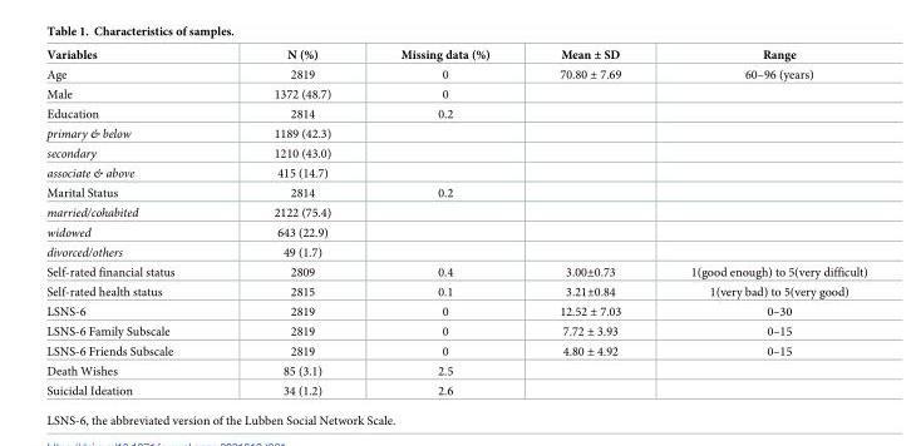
<table><thead><tr><td>Variables</td><td>N (%)</td><td>Missing data (%)</td><td>Mean ± SD</td><td>Range</td></tr></thead><tbody><tr><td>Age</td><td>2819</td><td>0</td><td>70.80 ± 7.69</td><td>60–96 (years)</td></tr><tr><td>Male</td><td>1372 (48.7)</td><td>0</td><td></td><td></td></tr><tr><td>Education</td><td>2814</td><td>0.2</td><td></td><td></td></tr><tr><td>primary &amp; below</td><td>1189 (42.3)</td><td></td><td></td><td></td></tr><tr><td>secondary</td><td>1210 (43.0)</td><td></td><td></td><td></td></tr><tr><td>associate &amp; above</td><td>415 (14.7)</td><td></td><td></td><td></td></tr><tr><td>Marital Status</td><td>2814</td><td>0.2</td><td></td><td></td></tr><tr><td>married/cohabited</td><td>2122 (75.4)</td><td></td><td></td><td></td></tr><tr><td>widowed</td><td>643 (22.9)</td><td></td><td></td><td></td></tr><tr><td>divorced/others</td><td>49 (1.7)</td><td></td><td></td><td></td></tr><tr><td>Self-rated financial status</td><td>2809</td><td>0.4</td><td>3.00±0.73</td><td>1(good enough) to 5(very difficult)</td></tr><tr><td>Self-rated health status</td><td>2815</td><td>0.1</td><td>3.21±0.84</td><td>1(very bad) to 5(very good)</td></tr><tr><td>LSNS-6</td><td>2819</td><td>0</td><td>12.52 ± 7.03</td><td>0–30</td></tr><tr><td>LSNS-6 Family Subscale</td><td>2819</td><td>0</td><td>7.72 ± 3.93</td><td>0–15</td></tr><tr><td>LSNS-6 Friends Subscale</td><td>2819</td><td>0</td><td>4.80 ± 4.92</td><td>0–15</td></tr><tr><td>Death Wishes</td><td>85 (3.1)</td><td>2.5</td><td></td><td></td></tr><tr><td>Suicidal Ideation</td><td>34 (1.2)</td><td>2.6</td><td></td><td></td></tr></tbody></table>